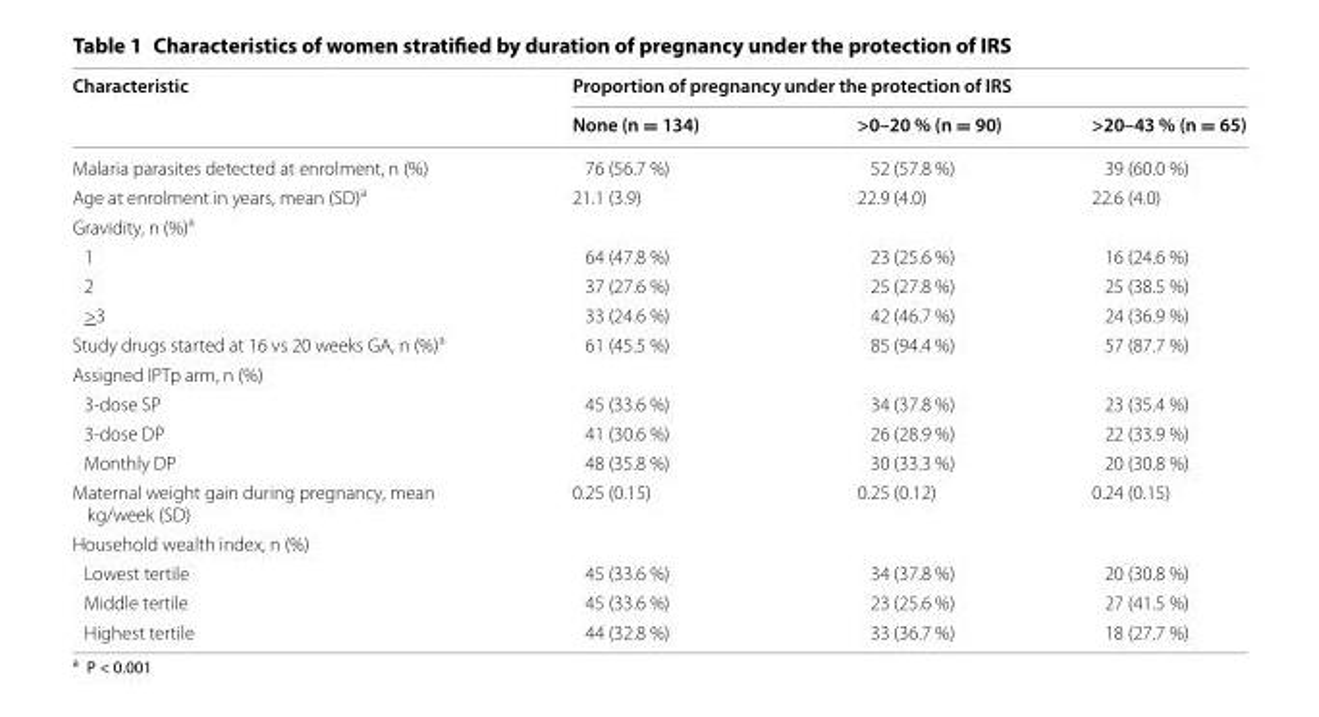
<table><thead><tr><td rowspan="2">Characteristic</td><td colspan="3">Proportion of pregnancy under the protection of IRS</td></tr><tr><td>None (n = 134)</td><td>&gt;0–20 % (n = 90)</td><td>&gt;20–43 % (n = 65)</td></tr></thead><tbody><tr><td>Malaria parasites detected at enrolment, n (%)</td><td>76 (56.7 %)</td><td>52 (57.8 %)</td><td>39 (60.0 %)</td></tr><tr><td>Age at enrolment in years, mean (SD)<sup>a</sup></td><td>21.1 (3.9)</td><td>22.9 (4.0)</td><td>22.6 (4.0)</td></tr><tr><td colspan="4">Gravidity, n (%)<sup>a</sup></td></tr><tr><td>1</td><td>64 (47.8 %)</td><td>23 (25.6 %)</td><td>16 (24.6 %)</td></tr><tr><td>2</td><td>37 (27.6 %)</td><td>25 (27.8 %)</td><td>25 (38.5 %)</td></tr><tr><td>&gt;3</td><td>33 (24.6 %)</td><td>42 (46.7 %)</td><td>24 (36.9 %)</td></tr><tr><td>Study drugs started at 16 vs 20 weeks GA, n (%)<sup>a</sup></td><td>61 (45.5 %)</td><td>85 (94.4 %)</td><td>57 (87.7 %)</td></tr><tr><td colspan="4">Assigned IPTp arm, n (%)</td></tr><tr><td>3-dose SP</td><td>45 (33.6 %)</td><td>34 (37.8 %)</td><td>23 (35.4 %)</td></tr><tr><td>3-dose DP</td><td>41 (30.6 %)</td><td>26 (28.9 %)</td><td>22 (33.9 %)</td></tr><tr><td>Monthly DP</td><td>48 (35.8 %)</td><td>30 (33.3 %)</td><td>20 (30.8 %)</td></tr><tr><td>Maternal weight gain during pregnancy, mean kg/week (SD)</td><td>0.25 (0.15)</td><td>0.25 (0.12)</td><td>0.24 (0.15)</td></tr><tr><td colspan="4">Household wealth index, n (%)</td></tr><tr><td>Lowest tertile</td><td>45 (33.6 %)</td><td>34 (37.8 %)</td><td>20 (30.8 %)</td></tr><tr><td>Middle tertile</td><td>45 (33.6 %)</td><td>23 (25.6 %)</td><td>27 (41.5 %)</td></tr><tr><td>Highest tertile</td><td>44 (32.8 %)</td><td>33 (36.7 %)</td><td>18 (27.7 %)</td></tr></tbody></table>